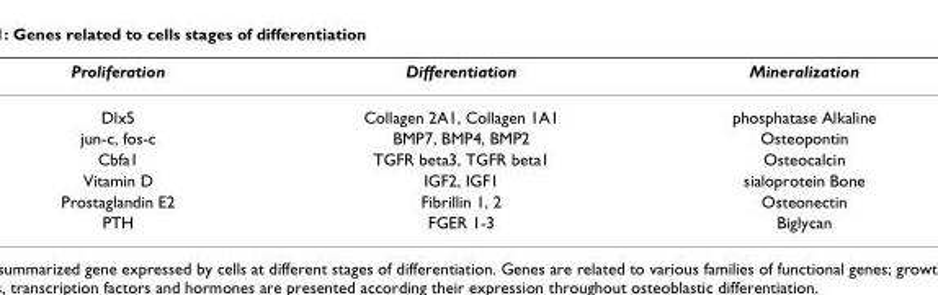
<table><thead><tr><td>Proliferation</td><td>Differentiation</td><td>Mineralization</td></tr></thead><tbody><tr><td>Dlx5</td><td>Collagen 2A1, Collagen 1A1</td><td>phosphatase Alkaline</td></tr><tr><td>jun-c, fos-c</td><td>BMP7, BMP4, BMP2</td><td>Osteopontin</td></tr><tr><td>Cbfa1</td><td>TGFR beta3, TGFR beta1</td><td>Osteocalcin</td></tr><tr><td>Vitamin D</td><td>IGF2, IGF1</td><td>sialoprotein Bone</td></tr><tr><td>Prostaglandin E2</td><td>Fibrillin 1, 2</td><td>Osteonectin</td></tr><tr><td>PTH</td><td>FGER 1-3</td><td>Biglycan</td></tr></tbody></table>